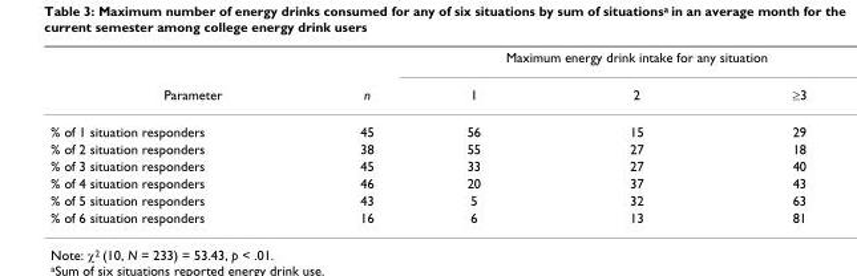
<table><thead><tr><td rowspan="2">Parameter</td><td rowspan="2">n</td><td colspan="3">Maximum energy drink intake for any situation</td></tr><tr><td>1</td><td>2</td><td>≥3</td></tr></thead><tbody><tr><td>% of 1 situation responders</td><td>45</td><td>56</td><td>15</td><td>29</td></tr><tr><td>% of 2 situation responders</td><td>38</td><td>55</td><td>27</td><td>18</td></tr><tr><td>% of 3 situation responders</td><td>45</td><td>33</td><td>27</td><td>40</td></tr><tr><td>% of 4 situation responders</td><td>46</td><td>20</td><td>37</td><td>43</td></tr><tr><td>% of 5 situation responders</td><td>43</td><td>5</td><td>32</td><td>63</td></tr><tr><td>% of 6 situation responders</td><td>16</td><td>6</td><td>13</td><td>81</td></tr></tbody></table>